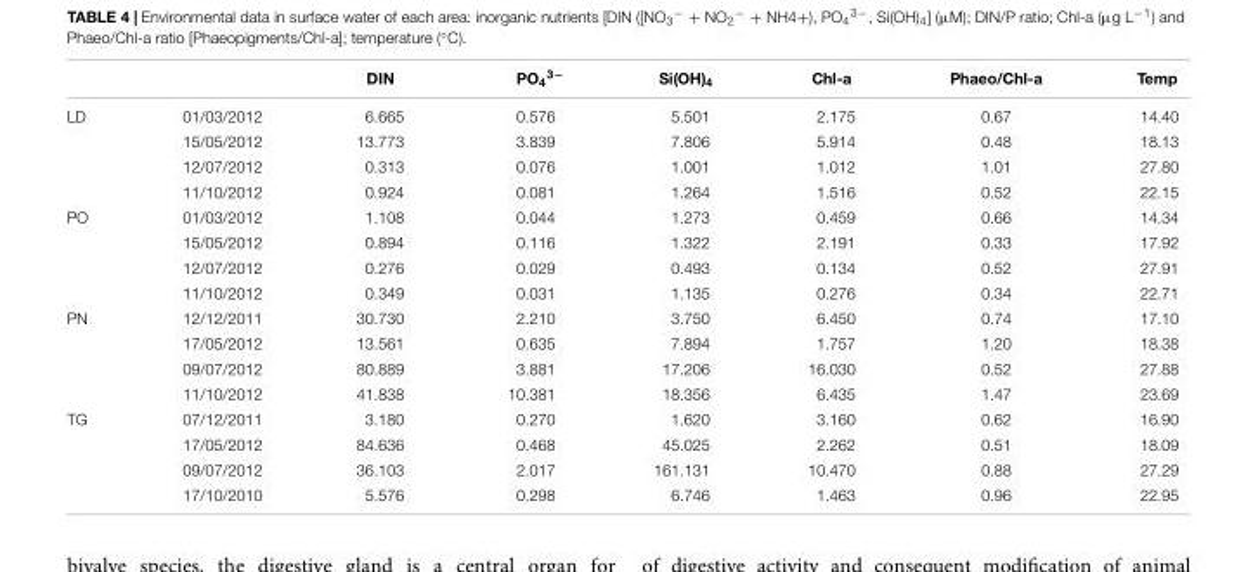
<table><thead><tr><td></td><td></td><td>DIN</td><td>PO<sub>4</sub><sup>3−</sup></td><td>Si(OH)<sub>4</sub></td><td>Chl-a</td><td>Phaeo/Chl-a</td><td>Temp</td></tr></thead><tbody><tr><td rowspan="4">LD</td><td>01/03/2012</td><td>6.665</td><td>0.576</td><td>5.501</td><td>2.175</td><td>0.67</td><td>14.40</td></tr><tr><td>15/05/2012</td><td>13.773</td><td>3.839</td><td>7.806</td><td>5.914</td><td>0.48</td><td>18.13</td></tr><tr><td>12/07/2012</td><td>0.313</td><td>0.076</td><td>1.001</td><td>1.012</td><td>1.01</td><td>27.80</td></tr><tr><td>11/10/2012</td><td>0.924</td><td>0.081</td><td>1.264</td><td>1.516</td><td>0.52</td><td>22.15</td></tr><tr><td rowspan="4">PO</td><td>01/03/2012</td><td>1.108</td><td>0.044</td><td>1.273</td><td>0.459</td><td>0.66</td><td>14.34</td></tr><tr><td>15/05/2012</td><td>0.894</td><td>0.116</td><td>1.322</td><td>2.191</td><td>0.33</td><td>17.92</td></tr><tr><td>12/07/2012</td><td>0.276</td><td>0.029</td><td>0.493</td><td>0.134</td><td>0.52</td><td>27.91</td></tr><tr><td>11/10/2012</td><td>0.349</td><td>0.031</td><td>1.135</td><td>0.276</td><td>0.34</td><td>22.71</td></tr><tr><td rowspan="4">PN</td><td>12/12/2011</td><td>30.730</td><td>2.210</td><td>3.750</td><td>6.450</td><td>0.74</td><td>17.10</td></tr><tr><td>17/05/2012</td><td>13.561</td><td>0.635</td><td>7.894</td><td>1.757</td><td>1.20</td><td>18.38</td></tr><tr><td>09/07/2012</td><td>80.889</td><td>3.881</td><td>17.206</td><td>16.030</td><td>0.52</td><td>27.88</td></tr><tr><td>11/10/2012</td><td>41.838</td><td>10.381</td><td>18.356</td><td>6.435</td><td>1.47</td><td>23.69</td></tr><tr><td rowspan="4">TG</td><td>07/12/2011</td><td>3.180</td><td>0.270</td><td>1.620</td><td>3.160</td><td>0.62</td><td>16.90</td></tr><tr><td>17/05/2012</td><td>84.636</td><td>0.468</td><td>45.025</td><td>2.262</td><td>0.51</td><td>18.09</td></tr><tr><td>09/07/2012</td><td>36.103</td><td>2.017</td><td>161.131</td><td>10.470</td><td>0.88</td><td>27.29</td></tr><tr><td>17/10/2010</td><td>5.576</td><td>0.298</td><td>6.746</td><td>1.463</td><td>0.96</td><td>22.95</td></tr></tbody></table>